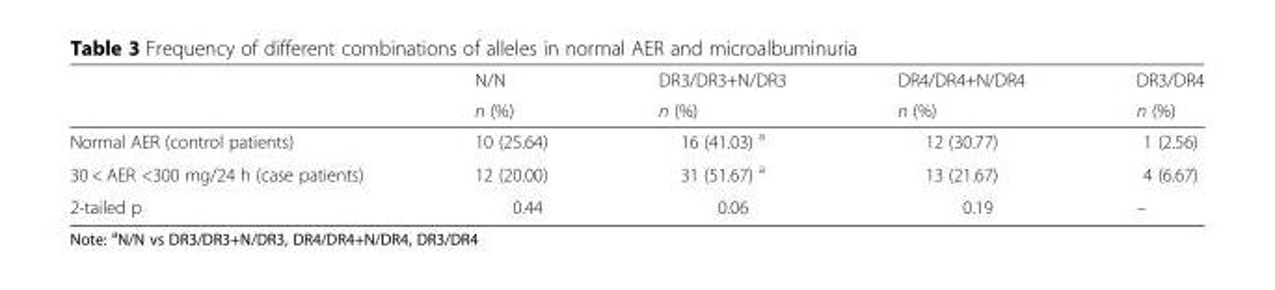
<table><thead><tr><td rowspan="2"></td><td rowspan="2">N/N n (%)</td><td rowspan="2">DR3/DR3+N/DR3 n (%)</td><td rowspan="2">DR4/DR4+N/DR4 n (%)</td><td rowspan="2">DR3/DR4 n (%)</td></tr><tr></tr></thead><tbody><tr><td>Normal AER (control patients)</td><td>10 (25.64)</td><td>16 (41.03) <sup>a</sup></td><td>12 (30.77)</td><td>1 (2.56)</td></tr><tr><td>30 &lt; AER &lt;300 mg/24 h (case patients)</td><td>12 (20.00)</td><td>31 (51.67) <sup>a</sup></td><td>13 (21.67)</td><td>4 (6.67)</td></tr><tr><td>2-tailed p</td><td>0.44</td><td>0.06</td><td>0.19</td><td>–</td></tr></tbody></table>